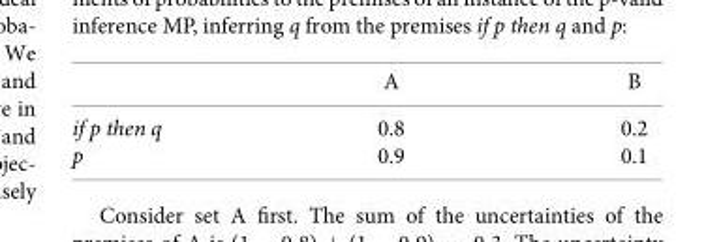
<table><thead><tr><td></td><td>A</td><td>B</td></tr></thead><tbody><tr><td>if p then q</td><td>0.8</td><td>0.2</td></tr><tr><td>p</td><td>0.9</td><td>0.1</td></tr></tbody></table>